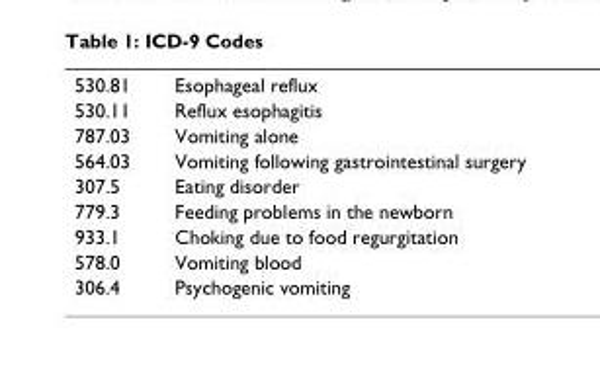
<table><tbody><tr><td>530.81</td><td>Esophageal reflux</td></tr><tr><td>530.11</td><td>Reflux esophagitis</td></tr><tr><td>787.03</td><td>Vomiting alone</td></tr><tr><td>564.03</td><td>Vomiting following gastrointestinal surgery</td></tr><tr><td>307.5</td><td>Eating disorder</td></tr><tr><td>779.3</td><td>Feeding problems in the newborn</td></tr><tr><td>933.1</td><td>Choking due to food regurgitation</td></tr><tr><td>578.0</td><td>Vomiting blood</td></tr><tr><td>306.4</td><td>Psychogenic vomiting</td></tr></tbody></table>